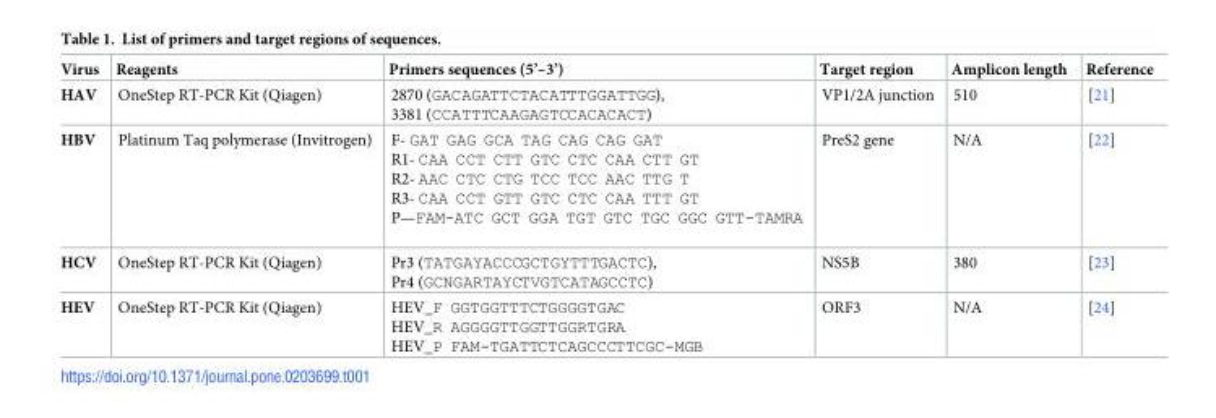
<table><thead><tr><td>Virus</td><td>Reagents</td><td>Primers sequences (5’–3’)</td><td>Target region</td><td>Amplicon length</td><td>Reference</td></tr></thead><tbody><tr><td>HAV</td><td>OneStep RT-PCR Kit (Qiagen)</td><td>2870 (GACAGATTCTACATTTGGATTGG), 3381 (CCATTTCAAGAGTCCACACACT)</td><td>VP1/2A junction</td><td>510</td><td>[21]</td></tr><tr><td>HBV</td><td>Platinum Taq polymerase (Invitrogen)</td><td>F- GAT GAG GCA TAG CAG CAG GAT R1- CAA CCT CTT GTC CTC CAA CTT GT R2- AAC CTC CTG TCC TCC AAC TTG T R3- CAA CCT GTT GTC CTC CAA TTT GT P—FAM-ATC GCT GGA TGT GTC TGC GGC GTT-TAMRA</td><td>PreS2 gene</td><td>N/A</td><td>[22]</td></tr><tr><td>HCV</td><td>OneStep RT-PCR Kit (Qiagen)</td><td>Pr3 (TATGAYACCCGCTGYTTTGACTC), Pr4 (GCNGARTAYCTVGTCATAGCCTC)</td><td>NS5B</td><td>380</td><td>[23]</td></tr><tr><td>HEV</td><td>OneStep RT-PCR Kit (Qiagen)</td><td>HEV_F GGTGGTTTCTGGGGTGAC HEV_R AGGGGTTGGTTGGRTGRA HEV_P FAM-TGATTCTCAGCCCTTCGC-MGB</td><td>ORF3</td><td>N/A</td><td>[24]</td></tr></tbody></table>